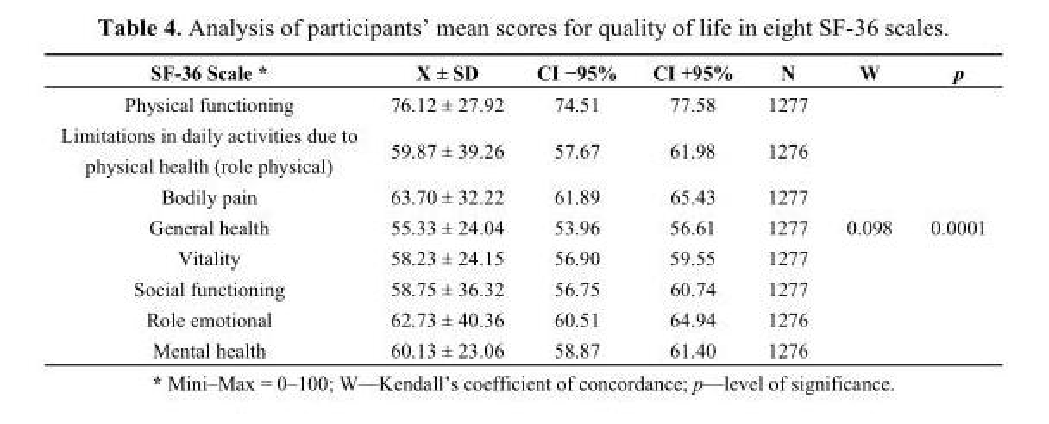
<table><thead><tr><td>SF-36 Scale *</td><td>X ± SD</td><td>CI −95%</td><td>CI +95%</td><td>N</td><td>W</td><td>p</td></tr></thead><tbody><tr><td>Physical functioning</td><td>76.12 ± 27.92</td><td>74.51</td><td>77.58</td><td>1277</td><td rowspan="8">0.098</td><td rowspan="8">0.0001</td></tr><tr><td>Limitations in daily activities due to physical health (role physical)</td><td>59.87 ± 39.26</td><td>57.67</td><td>61.98</td><td>1276</td></tr><tr><td>Bodily pain</td><td>63.70 ± 32.22</td><td>61.89</td><td>65.43</td><td>1277</td></tr><tr><td>General health</td><td>55.33 ± 24.04</td><td>53.96</td><td>56.61</td><td>1277</td></tr><tr><td>Vitality</td><td>58.23 ± 24.15</td><td>56.90</td><td>59.55</td><td>1277</td></tr><tr><td>Social functioning</td><td>58.75 ± 36.32</td><td>56.75</td><td>60.74</td><td>1277</td></tr><tr><td>Role emotional</td><td>62.73 ± 40.36</td><td>60.51</td><td>64.94</td><td>1276</td></tr><tr><td>Mental health</td><td>60.13 ± 23.06</td><td>58.87</td><td>61.40</td><td>1276</td></tr></tbody></table>